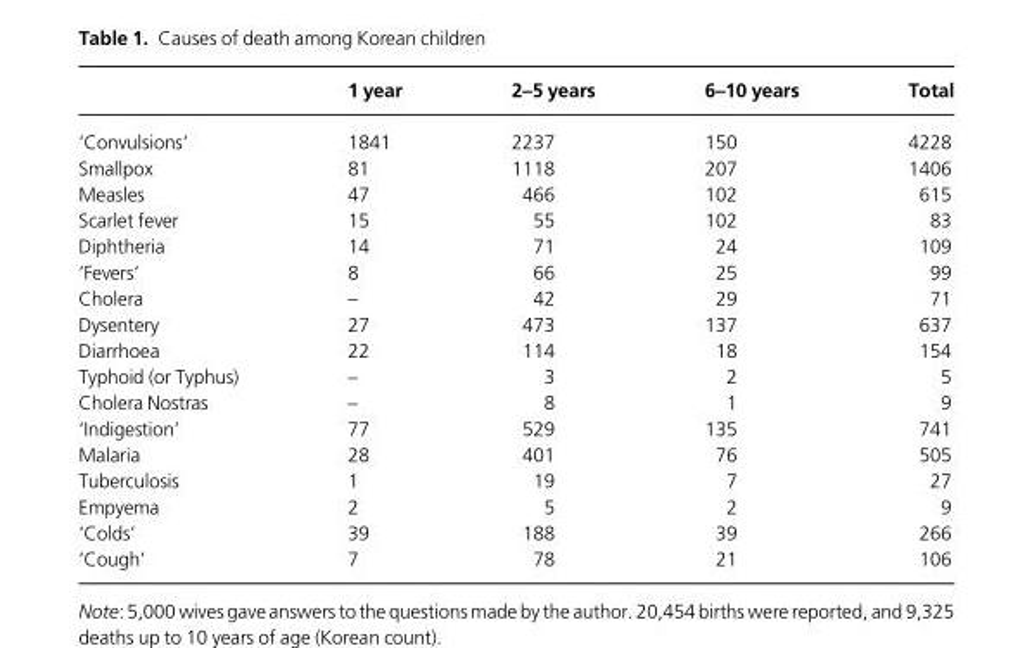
<table><thead><tr><td></td><td>1 year</td><td>2–5 years</td><td>6–10 years</td><td>Total</td></tr></thead><tbody><tr><td>‘Convulsions’</td><td>1841</td><td>2237</td><td>150</td><td>4228</td></tr><tr><td>Smallpox</td><td>81</td><td>1118</td><td>207</td><td>1406</td></tr><tr><td>Measles</td><td>47</td><td>466</td><td>102</td><td>615</td></tr><tr><td>Scarlet fever</td><td>15</td><td>55</td><td>102</td><td>83</td></tr><tr><td>Diphtheria</td><td>14</td><td>71</td><td>24</td><td>109</td></tr><tr><td>‘Fevers’</td><td>8</td><td>66</td><td>25</td><td>99</td></tr><tr><td>Cholera</td><td>–</td><td>42</td><td>29</td><td>71</td></tr><tr><td>Dysentery</td><td>27</td><td>473</td><td>137</td><td>637</td></tr><tr><td>Diarrhoea</td><td>22</td><td>114</td><td>18</td><td>154</td></tr><tr><td>Typhoid (or Typhus)</td><td>–</td><td>3</td><td>2</td><td>5</td></tr><tr><td>Cholera Nostras</td><td>–</td><td>8</td><td>1</td><td>9</td></tr><tr><td>‘Indigestion’</td><td>77</td><td>529</td><td>135</td><td>741</td></tr><tr><td>Malaria</td><td>28</td><td>401</td><td>76</td><td>505</td></tr><tr><td>Tuberculosis</td><td>1</td><td>19</td><td>7</td><td>27</td></tr><tr><td>Empyema</td><td>2</td><td>5</td><td>2</td><td>9</td></tr><tr><td>‘Colds’</td><td>39</td><td>188</td><td>39</td><td>266</td></tr><tr><td>‘Cough’</td><td>7</td><td>78</td><td>21</td><td>106</td></tr></tbody></table>